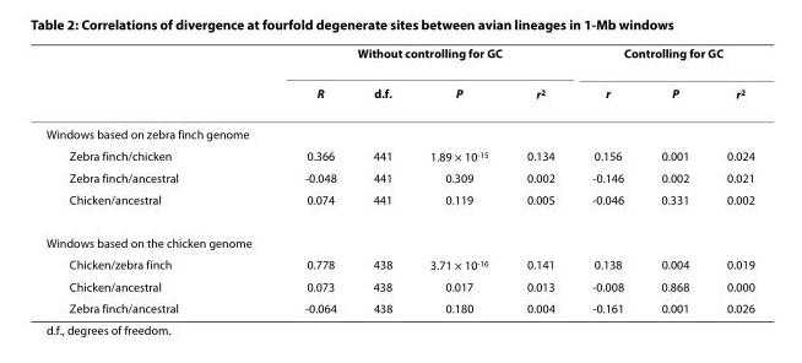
<table><thead><tr><td rowspan="2"></td><td colspan="4">Without controlling for GC</td><td colspan="3">Controlling for GC</td></tr><tr><td>R</td><td>d.f.</td><td>P</td><td>r<sup>2</sup></td><td>r</td><td>P</td><td>r<sup>2</sup></td></tr></thead><tbody><tr><td colspan="8">Windows based on zebra finch genome</td></tr><tr><td>Zebra finch/chicken</td><td>0.366</td><td>441</td><td>1.89 × 10<sup>-15</sup></td><td>0.134</td><td>0.156</td><td>0.001</td><td>0.024</td></tr><tr><td>Zebra finch/ancestral</td><td>-0.048</td><td>441</td><td>0.309</td><td>0.002</td><td>-0.146</td><td>0.002</td><td>0.021</td></tr><tr><td>Chicken/ancestral</td><td>0.074</td><td>441</td><td>0.119</td><td>0.005</td><td>-0.046</td><td>0.331</td><td>0.002</td></tr><tr><td colspan="8">Windows based on the chicken genome</td></tr><tr><td>Chicken/zebra finch</td><td>0.778</td><td>438</td><td>3.71 × 10<sup>-16</sup></td><td>0.141</td><td>0.138</td><td>0.004</td><td>0.019</td></tr><tr><td>Chicken/ancestral</td><td>0.073</td><td>438</td><td>0.017</td><td>0.013</td><td>-0.008</td><td>0.868</td><td>0.000</td></tr><tr><td>Zebra finch/ancestral</td><td>-0.064</td><td>438</td><td>0.180</td><td>0.004</td><td>-0.161</td><td>0.001</td><td>0.026</td></tr></tbody></table>